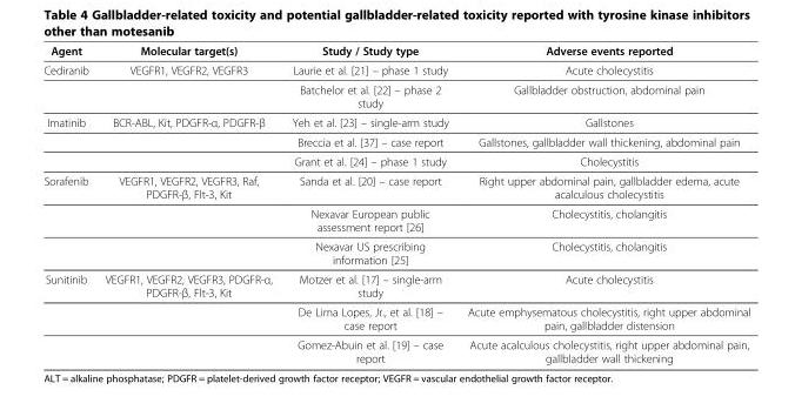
<table><thead><tr><td>Agent</td><td>Molecular target(s)</td><td>Study / Study type</td><td>Adverse events reported</td></tr></thead><tbody><tr><td rowspan="2">Cediranib</td><td>VEGFR1, VEGFR2, VEGFR3</td><td>Laurie et al. [21] – phase 1 study</td><td>Acute cholecystitis</td></tr><tr><td></td><td>Batchelor et al. [22] – phase 2 study</td><td>Gallbladder obstruction, abdominal pain</td></tr><tr><td rowspan="3">Imatinib</td><td>BCR-ABL, Kit, PDGFR-α, PDGFR-β</td><td>Yeh et al. [23] – single-arm study</td><td>Gallstones</td></tr><tr><td></td><td>Breccia et al. [37] – case report</td><td>Gallstones, gallbladder wall thickening, abdominal pain</td></tr><tr><td></td><td>Grant et al. [24] – phase 1 study</td><td>Cholecystitis</td></tr><tr><td rowspan="3">Sorafenib</td><td>VEGFR1, VEGFR2, VEGFR3, Raf, PDGFR-β, Flt-3, Kit</td><td>Sanda et al. [20] – case report</td><td>Right upper abdominal pain, gallbladder edema, acute acalculous cholecystitis</td></tr><tr><td></td><td>Nexavar European public assessment report [26]</td><td>Cholecystitis, cholangitis</td></tr><tr><td></td><td>Nexavar US prescribing information [25]</td><td>Cholecystitis, cholangitis</td></tr><tr><td rowspan="3">Sunitinib</td><td>VEGFR1, VEGFR2, VEGFR3, PDGFR-α, PDGFR-β, Flt-3, Kit</td><td>Motzer et al. [17] – single-arm study</td><td>Acute cholecystitis</td></tr><tr><td></td><td>De Lima Lopes, Jr., et al. [18] – case report</td><td>Acute emphysematous cholecystitis, right upper abdominal pain, gallbladder distension</td></tr><tr><td></td><td>Gomez-Abuin et al. [19] – case report</td><td>Acute acalculous cholecystitis, right upper abdominal pain, gallbladder wall thickening</td></tr></tbody></table>